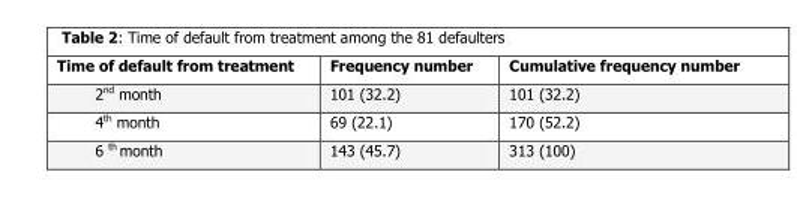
<table><thead><tr><td>Time of default from treatment</td><td>Frequency number</td><td>Cumulative frequency number</td></tr></thead><tbody><tr><td>2<sup>nd</sup> month</td><td>101 (32.2)</td><td>101 (32.2)</td></tr><tr><td>4<sup>th</sup> month</td><td>69 (22.1)</td><td>170 (52.2)</td></tr><tr><td>6 <sup>th</sup> month</td><td>143 (45.7)</td><td>313 (100)</td></tr></tbody></table>